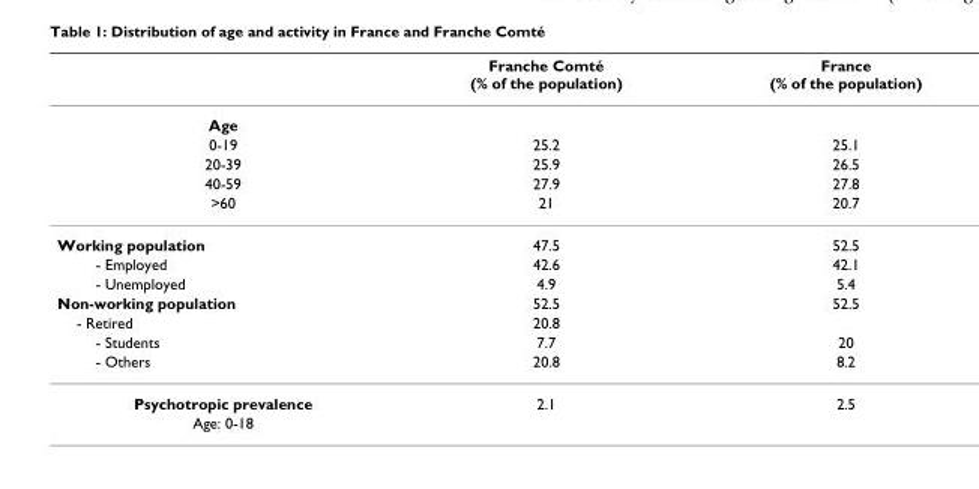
<table><thead><tr><td></td><td>Franche Comté (% of the population)</td><td>France (% of the population)</td></tr></thead><tbody><tr><td colspan="3">Age</td></tr><tr><td>0-19</td><td>25.2</td><td>25.1</td></tr><tr><td>20-39</td><td>25.9</td><td>26.5</td></tr><tr><td>40-59</td><td>27.9</td><td>27.8</td></tr><tr><td>&gt;60</td><td>21</td><td>20.7</td></tr><tr><td>Working population</td><td>47.5</td><td>52.5</td></tr><tr><td>- Employed</td><td>42.6</td><td>42.1</td></tr><tr><td>- Unemployed</td><td>4.9</td><td>5.4</td></tr><tr><td>Non-working population</td><td>52.5</td><td>52.5</td></tr><tr><td>- Retired</td><td>20.8</td><td></td></tr><tr><td>- Students</td><td>7.7</td><td>20</td></tr><tr><td>- Others</td><td>20.8</td><td>8.2</td></tr><tr><td>Psychotropic prevalence</td><td>2.1</td><td>2.5</td></tr><tr><td>Age: 0-18</td><td></td><td></td></tr></tbody></table>